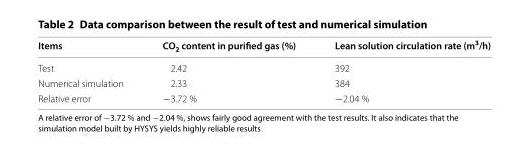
<table><thead><tr><td>Items</td><td>CO<sub>2</sub> content in purified gas (%)</td><td>Lean solution circulation rate (m<sup>3</sup>/h)</td></tr></thead><tbody><tr><td>Test</td><td>2.42</td><td>392</td></tr><tr><td>Numerical simulation</td><td>2.33</td><td>384</td></tr><tr><td>Relative error</td><td>−3.72 %</td><td>−2.04 %</td></tr></tbody></table>